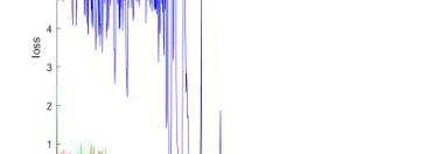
<table><thead><tr><td>Material</td><td>Average MSE</td><td>Average PSNR (dB)</td></tr></thead><tbody><tr><td>Sponge</td><td>0.0032</td><td>25.37</td></tr><tr><td>PET bottle</td><td>0.031</td><td>15.37</td></tr><tr><td>Human arm</td><td>0.010</td><td>20.59</td></tr></tbody></table>